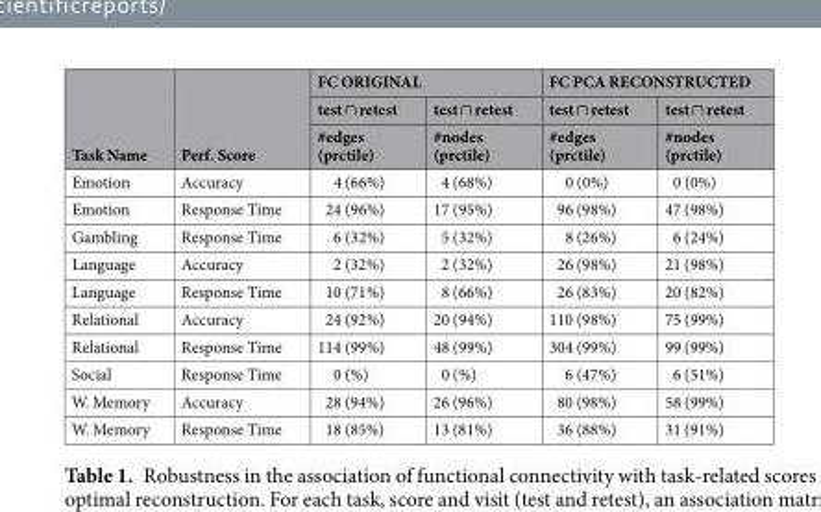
<table><thead><tr><td rowspan="3">Task Name</td><td rowspan="3">Perf. Score</td><td colspan="2">FC ORIGINAL</td><td colspan="2">FC PCA RECONSTRUCTED</td></tr><tr><td rowspan="2">test ∩ retest #edges (prctile)</td><td rowspan="2">test ∩ retest #nodes (prctile)</td><td rowspan="2">test ∩ retest #edges (prctile)</td><td rowspan="2">test ∩ retest #nodes (prctile)</td></tr><tr></tr></thead><tbody><tr><td>Emotion</td><td>Accuracy</td><td>4 (66%)</td><td>4 (68%)</td><td>0 (0%)</td><td>0 (0%)</td></tr><tr><td>Emotion</td><td>Response Time</td><td>24 (96%)</td><td>17 (95%)</td><td>96 (98%)</td><td>47 (98%)</td></tr><tr><td>Gambling</td><td>Response Time</td><td>6 (32%)</td><td>5 (32%)</td><td>8 (26%)</td><td>6 (24%)</td></tr><tr><td>Language</td><td>Accuracy</td><td>2 (32%)</td><td>2 (32%)</td><td>26 (98%)</td><td>21 (98%)</td></tr><tr><td>Language</td><td>Response Time</td><td>10 (71%)</td><td>8 (66%)</td><td>26 (83%)</td><td>20 (82%)</td></tr><tr><td>Relational</td><td>Accuracy</td><td>24 (92%)</td><td>20 (94%)</td><td>110 (98%)</td><td>75 (99%)</td></tr><tr><td>Relational</td><td>Response Time</td><td>114 (99%)</td><td>48 (99%)</td><td>304 (99%)</td><td>99 (99%)</td></tr><tr><td>Social</td><td>Response Time</td><td>0 (%)</td><td>0 (%)</td><td>6 (47%)</td><td>6 (51%)</td></tr><tr><td>W. Memory</td><td>Accuracy</td><td>28 (94%)</td><td>26 (96%)</td><td>80 (98%)</td><td>58 (99%)</td></tr><tr><td>W. Memory</td><td>Response Time</td><td>18 (85%)</td><td>13 (81%)</td><td>36 (88%)</td><td>31 (91%)</td></tr></tbody></table>